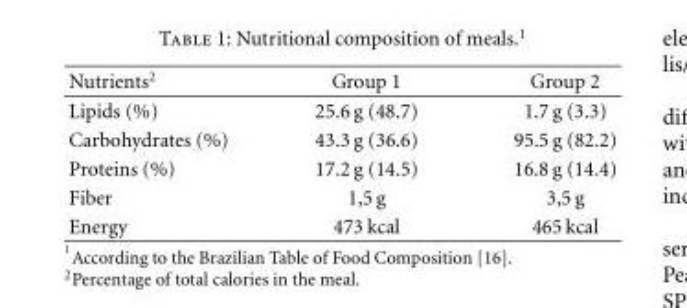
<table><thead><tr><td>Nutrients<sup>2</sup></td><td>Group 1</td><td>Group 2</td></tr></thead><tbody><tr><td>Lipids (%)</td><td>25.6 g (48.7)</td><td>1.7 g (3.3)</td></tr><tr><td>Carbohydrates (%)</td><td>43.3 g (36.6)</td><td>95.5 g (82.2)</td></tr><tr><td>Proteins (%)</td><td>17.2 g (14.5)</td><td>16.8 g (14.4)</td></tr><tr><td>Fiber</td><td>1,5 g</td><td>3,5 g</td></tr><tr><td>Energy</td><td>473 kcal</td><td>465 kcal</td></tr></tbody></table>